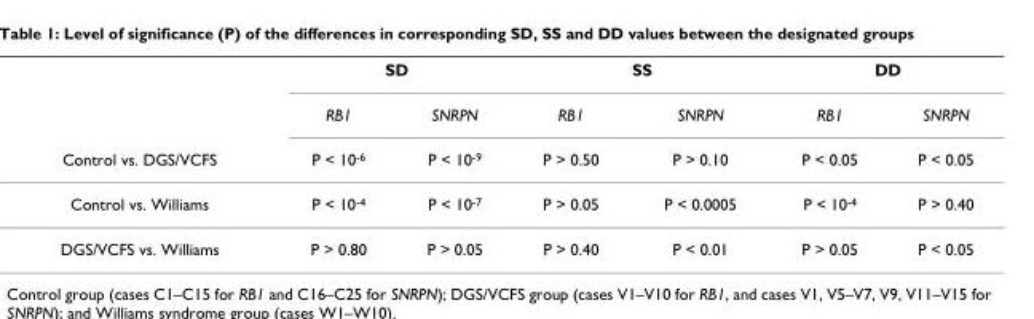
<table><thead><tr><td rowspan="3">Control vs. DGS/VCFS</td><td colspan="2">SD</td><td colspan="2">SS</td><td colspan="2">DD</td></tr><tr><td rowspan="2">RB1 P &lt; 10<sup>-6</sup></td><td rowspan="2">SNRPN P &lt; 10<sup>-9</sup></td><td rowspan="2">RB1 P &gt; 0.50</td><td rowspan="2">SNRPN P &gt; 0.10</td><td rowspan="2">RB1 P &lt; 0.05</td><td rowspan="2">SNRPN P &lt; 0.05</td></tr><tr></tr></thead><tbody><tr><td>Control vs. Williams</td><td>P &lt; 10<sup>-4</sup></td><td>P &lt; 10<sup>-7</sup></td><td>P &gt; 0.05</td><td>P &lt; 0.0005</td><td>P &lt; 10<sup>-4</sup></td><td>P &gt; 0.40</td></tr><tr><td>DGS/VCFS vs. Williams</td><td>P &gt; 0.80</td><td>P &gt; 0.05</td><td>P &gt; 0.40</td><td>P &lt; 0.01</td><td>P &gt; 0.05</td><td>P &lt; 0.05</td></tr></tbody></table>